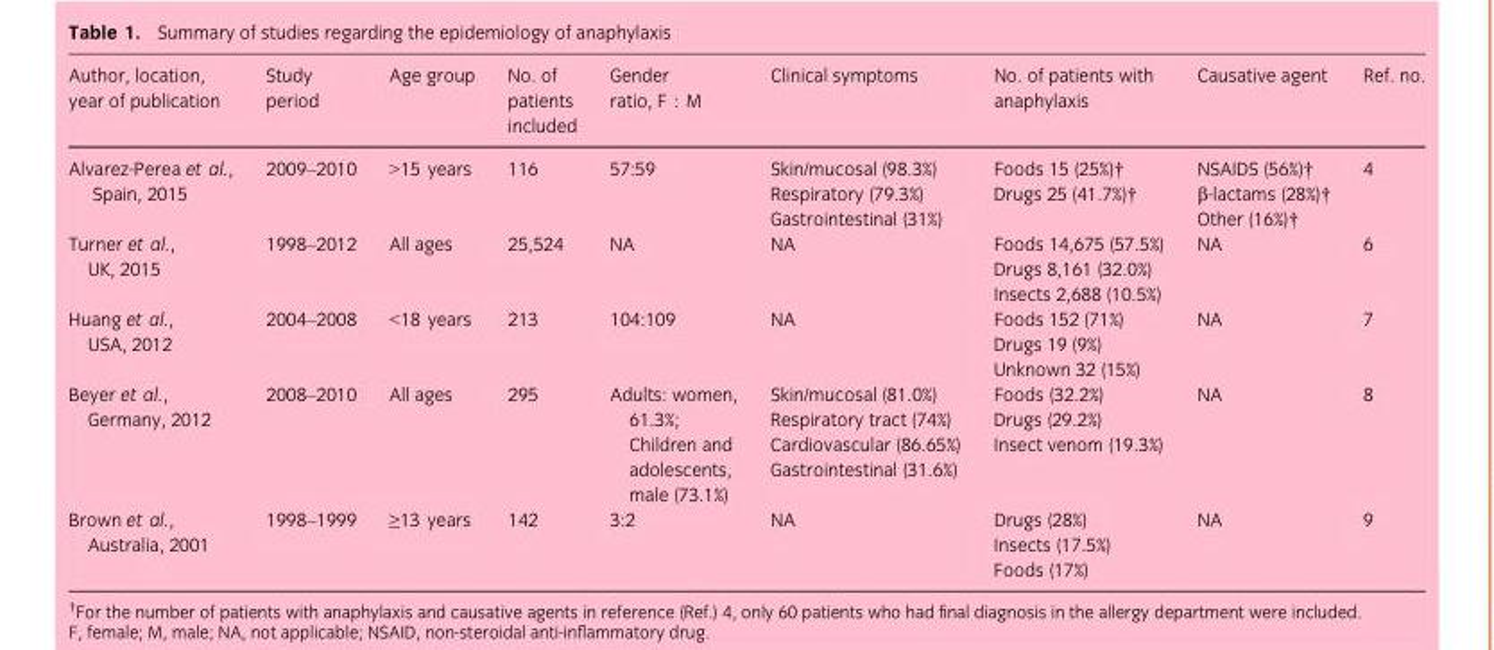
<table><thead><tr><td>Author, location, year of publication</td><td>Study period</td><td>Age group</td><td>No. of patients included</td><td>Gender ratio, F : M</td><td>Clinical symptoms</td><td>No. of patients with anaphylaxis</td><td>Causative agent</td><td>Ref. no.</td></tr></thead><tbody><tr><td>Alvarez-Perea et al., Spain, 2015</td><td>2009–2010</td><td>&gt;15 years</td><td>116</td><td>57:59</td><td>Skin/mucosal (98.3%) Respiratory (79.3%) Gastrointestinal (31%)</td><td>Foods 15 (25%)† Drugs 25 (41.7%)†</td><td>NSAIDS (56%)† b-lactams (28%)† Other (16%)†</td><td>4</td></tr><tr><td>Turner et al., UK, 2015</td><td>1998–2012</td><td>All ages</td><td>25,524</td><td>NA</td><td>NA</td><td>Foods 14,675 (57.5%) Drugs 8,161 (32.0%) Insects 2,688 (10.5%)</td><td>NA</td><td>6</td></tr><tr><td>Huang et al., USA, 2012</td><td>2004–2008</td><td>&lt;18 years</td><td>213</td><td>104:109</td><td>NA</td><td>Foods 152 (71%) Drugs 19 (9%) Unknown 32 (15%)</td><td>NA</td><td>7</td></tr><tr><td>Beyer et al., Germany, 2012</td><td>2008–2010</td><td>All ages</td><td>295</td><td>Adults: women, 61.3%; Children and adolescents, male (73.1%)</td><td>Skin/mucosal (81.0%) Respiratory tract (74%) Cardiovascular (86.65%) Gastrointestinal (31.6%)</td><td>Foods (32.2%) Drugs (29.2%) Insect venom (19.3%)</td><td>NA</td><td>8</td></tr><tr><td>Brown et al., Australia, 2001</td><td>1998–1999</td><td>≥13 years</td><td>142</td><td>3:2</td><td>NA</td><td>Drugs (28%) Insects (17.5%) Foods (17%)</td><td>NA</td><td>9</td></tr></tbody></table>